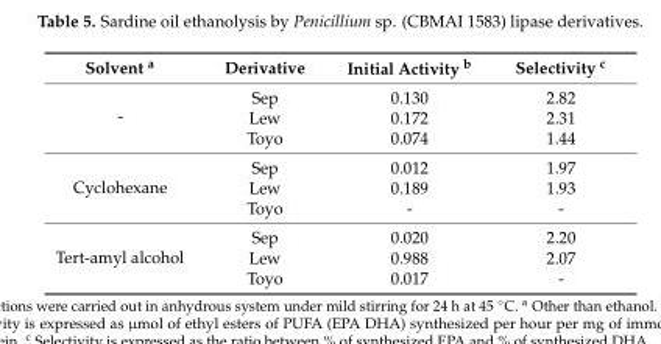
<table><thead><tr><td>Solvent <sup>a</sup></td><td>Derivative</td><td>Initial Activity <sup>b</sup></td><td>Selectivity <sup>c</sup></td></tr></thead><tbody><tr><td rowspan="3">-</td><td>Sep</td><td>0.130</td><td>2.82</td></tr><tr><td>Lew</td><td>0.172</td><td>2.31</td></tr><tr><td>Toyo</td><td>0.074</td><td>1.44</td></tr><tr><td rowspan="3">Cyclohexane</td><td>Sep</td><td>0.012</td><td>1.97</td></tr><tr><td>Lew</td><td>0.189</td><td>1.93</td></tr><tr><td>Toyo</td><td>-</td><td>-</td></tr><tr><td rowspan="3">Tert-amyl alcohol</td><td>Sep</td><td>0.020</td><td>2.20</td></tr><tr><td>Lew</td><td>0.988</td><td>2.07</td></tr><tr><td>Toyo</td><td>0.017</td><td>-</td></tr></tbody></table>